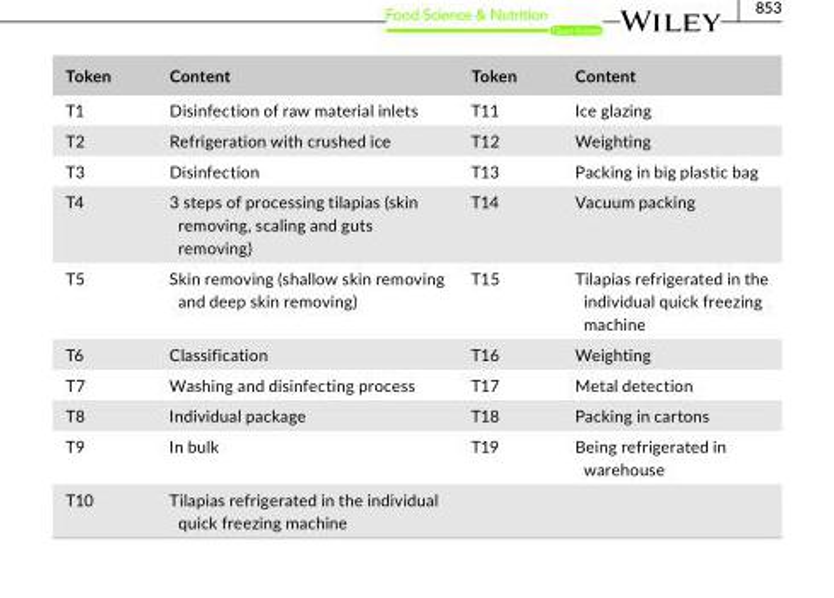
<table><thead><tr><td>Token</td><td>Content</td><td>Token</td><td>Content</td></tr></thead><tbody><tr><td>T1</td><td>Disinfection of raw material inlets</td><td>T11</td><td>Ice glazing</td></tr><tr><td>T2</td><td>Refrigeration with crushed ice</td><td>T12</td><td>Weighting</td></tr><tr><td>T3</td><td>Disinfection</td><td>T13</td><td>Packing in big plastic bag</td></tr><tr><td>T4</td><td>3 steps of processing tilapias (skin removing, scaling and guts removing)</td><td>T14</td><td>Vacuum packing</td></tr><tr><td>T5</td><td>Skin removing (shallow skin removing and deep skin removing)</td><td>T15</td><td>Tilapias refrigerated in the individual quick freezing machine</td></tr><tr><td>T6</td><td>Classification</td><td>T16</td><td>Weighting</td></tr><tr><td>T7</td><td>Washing and disinfecting process</td><td>T17</td><td>Metal detection</td></tr><tr><td>T8</td><td>Individual package</td><td>T18</td><td>Packing in cartons</td></tr><tr><td>T9</td><td>In bulk</td><td>T19</td><td>Being refrigerated in warehouse</td></tr><tr><td>T10</td><td>Tilapias refrigerated in the individual quick freezing machine</td><td></td><td></td></tr></tbody></table>